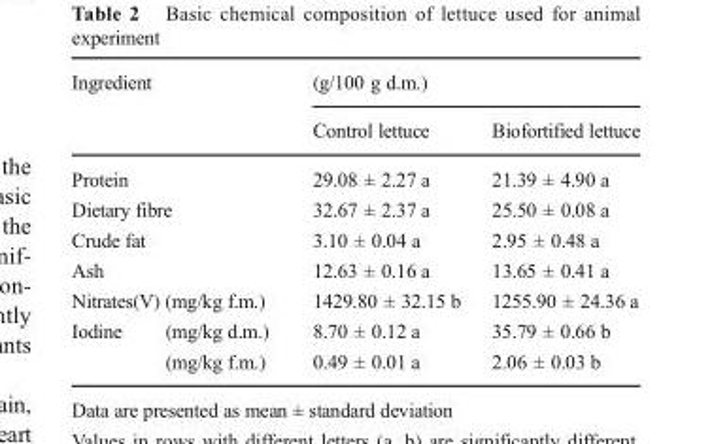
<table><thead><tr><td rowspan="2" colspan="2">Ingredient</td><td colspan="2">(g/100 g d.m.)</td></tr><tr><td>Control lettuce</td><td>Biofortified lettuce</td></tr></thead><tbody><tr><td colspan="2">Protein</td><td>29.08 ± 2.27 a</td><td>21.39 ± 4.90 a</td></tr><tr><td colspan="2">Dietary fibre</td><td>32.67 ± 2.37 a</td><td>25.50 ± 0.08 a</td></tr><tr><td colspan="2">Crude fat</td><td>3.10 ± 0.04 a</td><td>2.95 ± 0.48 a</td></tr><tr><td colspan="2">Ash</td><td>12.63 ± 0.16 a</td><td>13.65 ± 0.41 a</td></tr><tr><td colspan="2">Nitrates(V) (mg/kg f.m.)</td><td>1429.80 ± 32.15 b</td><td>1255.90 ± 24.36 a</td></tr><tr><td rowspan="2">Iodine</td><td>(mg/kg d.m.)</td><td>8.70 ± 0.12 a</td><td>35.79 ± 0.66 b</td></tr><tr><td>(mg/kg f.m.)</td><td>0.49 ± 0.01 a</td><td>2.06 ± 0.03 b</td></tr></tbody></table>